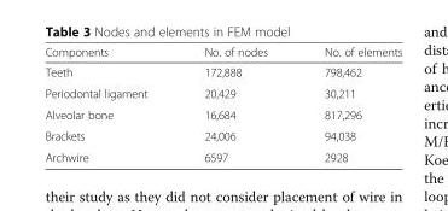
<table><thead><tr><td>Components</td><td>No. of nodes</td><td>No. of elements</td></tr></thead><tbody><tr><td>Teeth</td><td>172,888</td><td>798,462</td></tr><tr><td>Periodontal ligament</td><td>20,429</td><td>30,211</td></tr><tr><td>Alveolar bone</td><td>16,684</td><td>817,296</td></tr><tr><td>Brackets</td><td>24,006</td><td>94,038</td></tr><tr><td>Archwire</td><td>6597</td><td>2928</td></tr></tbody></table>